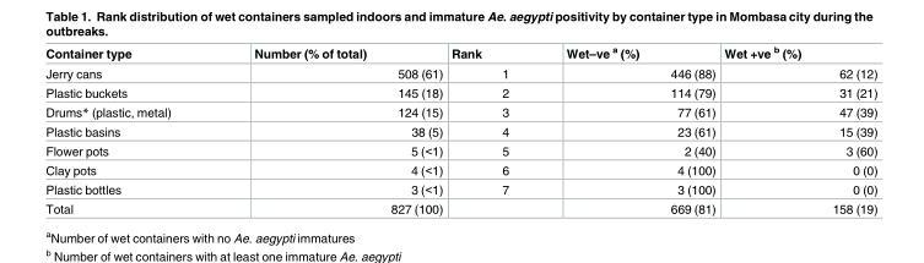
<table><thead><tr><td>Container type</td><td>Number (% of total)</td><td>Rank</td><td>Wet–ve <sup>a</sup> (%)</td><td>Wet +ve <sup>b</sup> (%)</td></tr></thead><tbody><tr><td>Jerry cans</td><td>508 (61)</td><td>1</td><td>446 (88)</td><td>62 (12)</td></tr><tr><td>Plastic buckets</td><td>145 (18)</td><td>2</td><td>114 (79)</td><td>31 (21)</td></tr><tr><td>Drums* (plastic, metal)</td><td>124 (15)</td><td>3</td><td>77 (61)</td><td>47 (39)</td></tr><tr><td>Plastic basins</td><td>38 (5)</td><td>4</td><td>23 (61)</td><td>15 (39)</td></tr><tr><td>Flower pots</td><td>5 (&lt;1)</td><td>5</td><td>2 (40)</td><td>3 (60)</td></tr><tr><td>Clay pots</td><td>4 (&lt;1)</td><td>6</td><td>4 (100)</td><td>0 (0)</td></tr><tr><td>Plastic bottles</td><td>3 (&lt;1)</td><td>7</td><td>3 (100)</td><td>0 (0)</td></tr><tr><td>Total</td><td>827 (100)</td><td></td><td>669 (81)</td><td>158 (19)</td></tr></tbody></table>